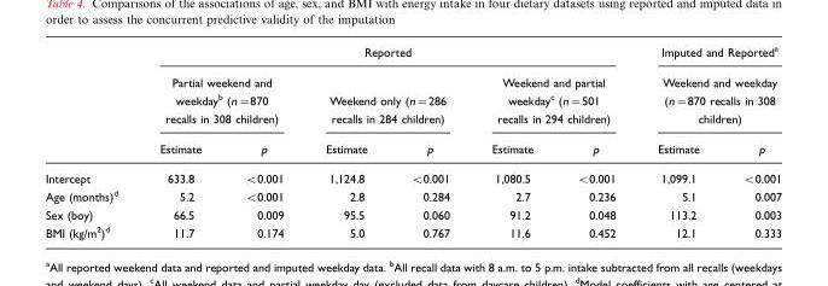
<table><thead><tr><td rowspan="3"></td><td colspan="6">Reported</td><td rowspan="2" colspan="2">Imputed and Reported<sup>a</sup> Weekend and weekday (n=870 recalls in 308 children)</td></tr><tr><td colspan="2">Partial weekend and weekday<sup>b</sup> (n=870 recalls in 308 children)</td><td colspan="2">Weekend only (n=286 recalls in 284 children)</td><td colspan="2">Weekend and partial weekday<sup>c</sup> (n=501 recalls in 294 children)</td></tr><tr><td>Estimate</td><td>p</td><td>Estimate</td><td>p</td><td>Estimate</td><td>p</td><td>Estimate</td><td>p</td></tr></thead><tbody><tr><td>Intercept</td><td>633.8</td><td>&lt;0.001</td><td>1,124.8</td><td>&lt;0.001</td><td>1,080.5</td><td>&lt;0.001</td><td>1,099.1</td><td>&lt;0.001</td></tr><tr><td>Age (months)<sup>d</sup></td><td>5.2</td><td>&lt;0.001</td><td>2.8</td><td>0.284</td><td>2.7</td><td>0.236</td><td>5.1</td><td>0.007</td></tr><tr><td>Sex (boy)</td><td>66.5</td><td>0.009</td><td>95.5</td><td>0.060</td><td>91.2</td><td>0.048</td><td>113.2</td><td>0.003</td></tr><tr><td>BMI (kg/m<sup>2</sup>)<sup>d</sup></td><td>11.7</td><td>0.174</td><td>5.0</td><td>0.767</td><td>11.6</td><td>0.452</td><td>12.1</td><td>0.333</td></tr></tbody></table>